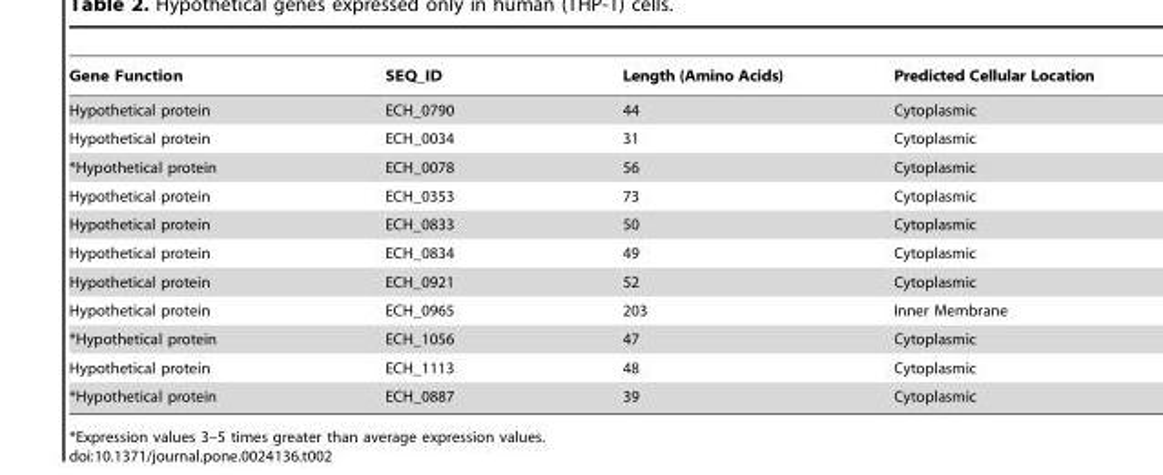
<table><thead><tr><td>Gene Function</td><td>SEQ_ID</td><td>Length (Amino Acids)</td><td>Predicted Cellular Location</td></tr></thead><tbody><tr><td>Hypothetical protein</td><td>ECH_0790</td><td>44</td><td>Cytoplasmic</td></tr><tr><td>Hypothetical protein</td><td>ECH_0034</td><td>31</td><td>Cytoplasmic</td></tr><tr><td>*Hypothetical protein</td><td>ECH_0078</td><td>56</td><td>Cytoplasmic</td></tr><tr><td>Hypothetical protein</td><td>ECH_0353</td><td>73</td><td>Cytoplasmic</td></tr><tr><td>Hypothetical protein</td><td>ECH_0833</td><td>50</td><td>Cytoplasmic</td></tr><tr><td>Hypothetical protein</td><td>ECH_0834</td><td>49</td><td>Cytoplasmic</td></tr><tr><td>Hypothetical protein</td><td>ECH_0921</td><td>52</td><td>Cytoplasmic</td></tr><tr><td>Hypothetical protein</td><td>ECH_0965</td><td>203</td><td>Inner Membrane</td></tr><tr><td>*Hypothetical protein</td><td>ECH_1056</td><td>47</td><td>Cytoplasmic</td></tr><tr><td>Hypothetical protein</td><td>ECH_1113</td><td>48</td><td>Cytoplasmic</td></tr><tr><td>*Hypothetical protein</td><td>ECH_0887</td><td>39</td><td>Cytoplasmic</td></tr></tbody></table>